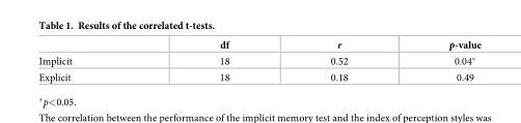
<table><thead><tr><td></td><td>df</td><td>r</td><td>p-value</td></tr></thead><tbody><tr><td>Implicit</td><td>18</td><td>0.52</td><td>0.04*</td></tr><tr><td>Explicit</td><td>18</td><td>0.18</td><td>0.49</td></tr></tbody></table>